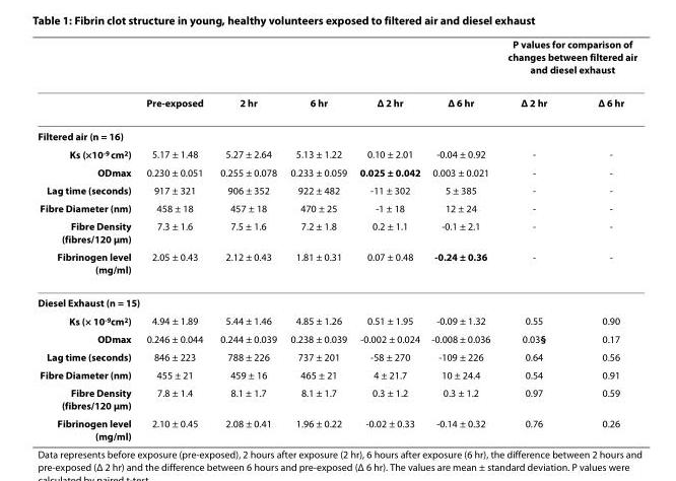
<table><thead><tr><td rowspan="2"></td><td rowspan="2">Pre-exposed</td><td rowspan="2">2 hr</td><td rowspan="2">6 hr</td><td rowspan="2">Δ 2 hr</td><td rowspan="2">Δ 6 hr</td><td colspan="2">P values for comparison of changes between filtered air and diesel exhaust</td></tr><tr><td>Δ 2 hr</td><td>Δ 6 hr</td></tr></thead><tbody><tr><td colspan="8">Filtered air (n = 16)</td></tr><tr><td>Ks (×10<sup>-9</sup> cm<sup>2</sup>)</td><td>5.17 ± 1.48</td><td>5.27 ± 2.64</td><td>5.13 ± 1.22</td><td>0.10 ± 2.01</td><td>-0.04 ± 0.92</td><td>-</td><td>-</td></tr><tr><td>ODmax</td><td>0.230 ± 0.051</td><td>0.255 ± 0.078</td><td>0.233 ± 0.059</td><td>0.025 ± 0.042</td><td>0.003 ± 0.021</td><td>-</td><td>-</td></tr><tr><td>Lag time (seconds)</td><td>917 ± 321</td><td>906 ± 352</td><td>922 ± 482</td><td>-11 ± 302</td><td>5 ± 385</td><td>-</td><td>-</td></tr><tr><td>Fibre Diameter (nm)</td><td>458 ± 18</td><td>457 ± 18</td><td>470 ± 25</td><td>-1 ± 18</td><td>12 ± 24</td><td>-</td><td>-</td></tr><tr><td>Fibre Density (fibres/120 μm)</td><td>7.3 ± 1.6</td><td>7.5 ± 1.6</td><td>7.2 ± 1.8</td><td>0.2 ± 1.1</td><td>-0.1 ± 2.1</td><td>-</td><td>-</td></tr><tr><td>Fibrinogen level (mg/ml)</td><td>2.05 ± 0.43</td><td>2.12 ± 0.43</td><td>1.81 ± 0.31</td><td>0.07 ± 0.48</td><td>-0.24 ± 0.36</td><td>-</td><td>-</td></tr><tr><td colspan="8">Diesel Exhaust (n = 15)</td></tr><tr><td>Ks (× 10<sup>-9</sup>cm<sup>2</sup>)</td><td>4.94 ± 1.89</td><td>5.44 ± 1.46</td><td>4.85 ± 1.26</td><td>0.51 ± 1.95</td><td>-0.09 ± 1.32</td><td>0.55</td><td>0.90</td></tr><tr><td>ODmax</td><td>0.246 ± 0.044</td><td>0.244 ± 0.039</td><td>0.238 ± 0.039</td><td>-0.002 ± 0.024</td><td>-0.008 ± 0.036</td><td>0.03§</td><td>0.17</td></tr><tr><td>Lag time (seconds)</td><td>846 ± 223</td><td>788 ± 226</td><td>737 ± 201</td><td>-58 ± 270</td><td>-109 ± 226</td><td>0.64</td><td>0.56</td></tr><tr><td>Fibre Diameter (nm)</td><td>455 ± 21</td><td>459 ± 16</td><td>465 ± 21</td><td>4 ± 21.7</td><td>10 ± 24.4</td><td>0.54</td><td>0.91</td></tr><tr><td>Fibre Density (fibres/120 μm)</td><td>7.8 ± 1.4</td><td>8.1 ± 1.7</td><td>8.1 ± 1.7</td><td>0.3 ± 1.2</td><td>0.3 ± 1.2</td><td>0.97</td><td>0.59</td></tr><tr><td>Fibrinogen level (mg/ml)</td><td>2.10 ± 0.45</td><td>2.08 ± 0.41</td><td>1.96 ± 0.22</td><td>-0.02 ± 0.33</td><td>-0.14 ± 0.32</td><td>0.76</td><td>0.26</td></tr></tbody></table>